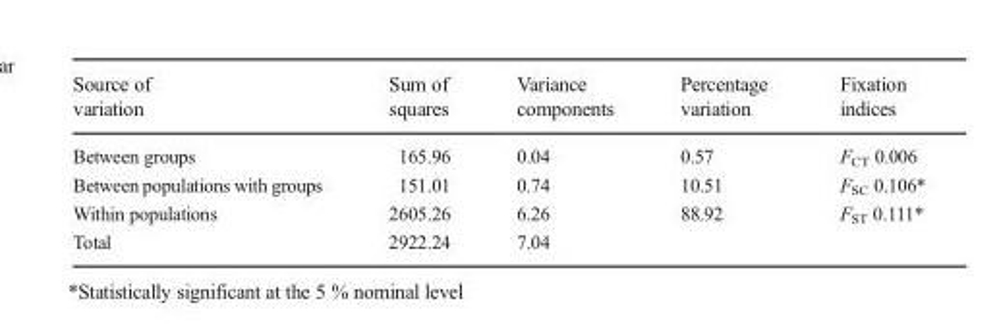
<table><thead><tr><td>Source of variation</td><td>Sum of squares</td><td>Variance components</td><td>Percentage variation</td><td>Fixation indices</td></tr></thead><tbody><tr><td>Between groups</td><td>165.96</td><td>0.04</td><td>0.57</td><td>F<sub>CT</sub> 0.006</td></tr><tr><td>Between populations with groups</td><td>151.01</td><td>0.74</td><td>10.51</td><td>F<sub>SC</sub> 0.106*</td></tr><tr><td>Within populations</td><td>2605.26</td><td>6.26</td><td>88.92</td><td>F<sub>ST</sub> 0.111*</td></tr><tr><td>Total</td><td>2922.24</td><td>7.04</td><td></td><td></td></tr></tbody></table>